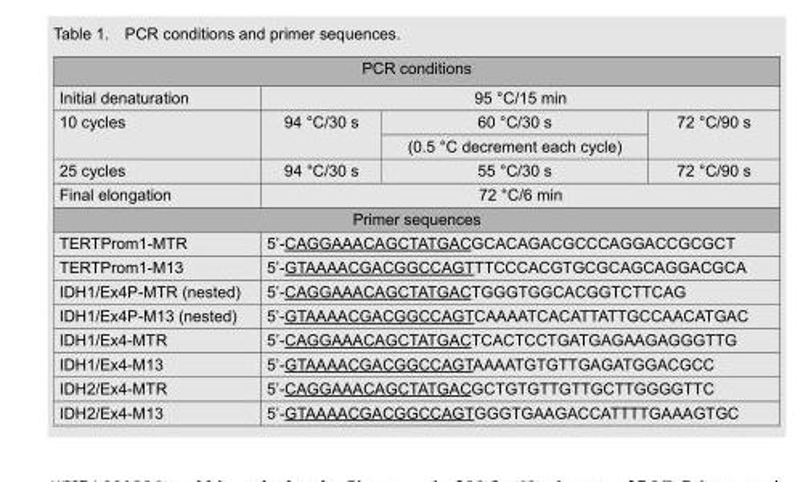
<table><tbody><tr><td colspan="4">PCR conditions</td></tr><tr><td>Initial denaturation</td><td colspan="3">95 °C/15 min</td></tr><tr><td rowspan="2">10 cycles</td><td rowspan="2">94 °C/30 s</td><td>60 °C/30 s</td><td rowspan="2">72 °C/90 s</td></tr><tr><td>(0.5 °C decrement each cycle)</td></tr><tr><td>25 cycles</td><td>94 °C/30 s</td><td>55 °C/30 s</td><td>72 °C/90 s</td></tr><tr><td>Final elongation</td><td colspan="3">72 °C/6 min</td></tr><tr><td colspan="4">Primer sequences</td></tr><tr><td>TERTProm1-MTR</td><td colspan="3">5’-CAGGAAACAGCTATGACGCACAGACGCCCAGGACCGCGCT</td></tr><tr><td>TERTProm1-M13</td><td colspan="3">5’-GTAAAACGACGGCCAGTTTCCCACGTGCGCAGCAGGACGCA</td></tr><tr><td>IDH1/Ex4P-MTR (nested)</td><td colspan="3">5’-CAGGAAACAGCTATGACTGGGTGGCACGGTCTTCAG</td></tr><tr><td>IDH1/Ex4P-M13 (nested)</td><td colspan="3">5’-GTAAAACGACGGCCAGTCAAAATCACATTATTGCCAACATGAC</td></tr><tr><td>IDH1/Ex4-MTR</td><td colspan="3">5’-CAGGAAACAGCTATGACTCACTCCTGATGAGAAGAGGGTTG</td></tr><tr><td>IDH1/Ex4-M13</td><td colspan="3">5’-GTAAAACGACGGCCAGTAAAATGTGTTGAGATGGACGCC</td></tr><tr><td>IDH2/Ex4-MTR</td><td colspan="3">5’-CAGGAAACAGCTATGACGCTGTGTTGTTGCTTGGGGTTC</td></tr><tr><td>IDH2/Ex4-M13</td><td colspan="3">5’-GTAAAACGACGGCCAGTGGGTGAAGACCATTTTGAAAGTGC</td></tr></tbody></table>